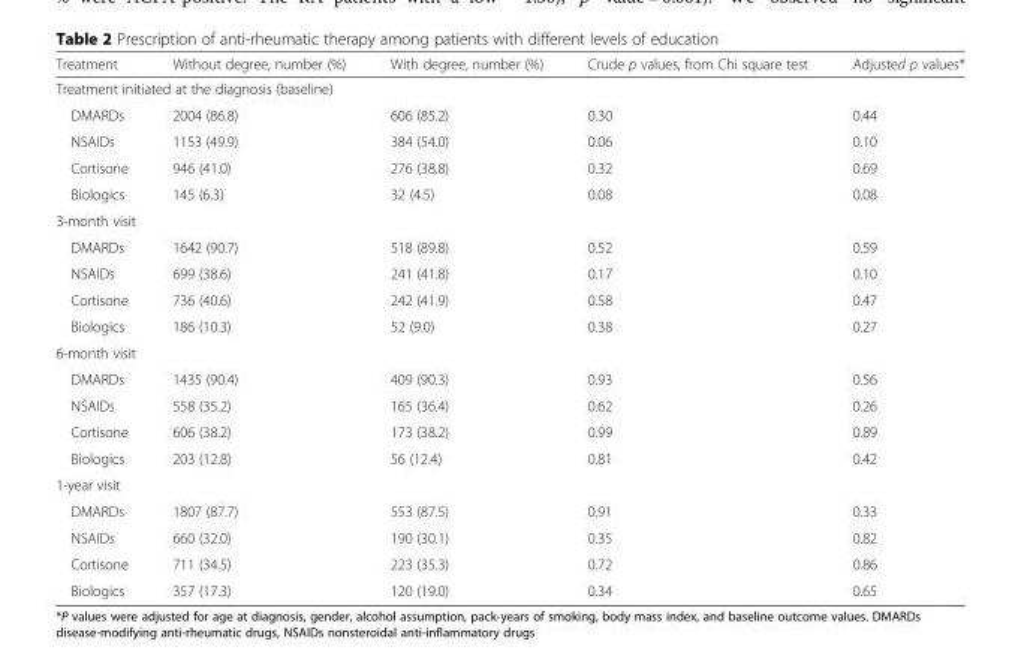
<table><thead><tr><td>Treatment</td><td>Without degree, number (%)</td><td>With degree, number (%)</td><td>Crude p values, from Chi square test</td><td>Adjusted p values*</td></tr></thead><tbody><tr><td colspan="5">Treatment initiated at the diagnosis (baseline)</td></tr><tr><td>DMARDs</td><td>2004 (86.8)</td><td>606 (85.2)</td><td>0.30</td><td>0.44</td></tr><tr><td>NSAIDs</td><td>1153 (49.9)</td><td>384 (54.0)</td><td>0.06</td><td>0.10</td></tr><tr><td>Cortisone</td><td>946 (41.0)</td><td>276 (38.8)</td><td>0.32</td><td>0.69</td></tr><tr><td>Biologics</td><td>145 (6.3)</td><td>32 (4.5)</td><td>0.08</td><td>0.08</td></tr><tr><td colspan="5">3-month visit</td></tr><tr><td>DMARDs</td><td>1642 (90.7)</td><td>518 (89.8)</td><td>0.52</td><td>0.59</td></tr><tr><td>NSAIDs</td><td>699 (38.6)</td><td>241 (41.8)</td><td>0.17</td><td>0.10</td></tr><tr><td>Cortisone</td><td>736 (40.6)</td><td>242 (41.9)</td><td>0.58</td><td>0.47</td></tr><tr><td>Biologics</td><td>186 (10.3)</td><td>52 (9.0)</td><td>0.38</td><td>0.27</td></tr><tr><td colspan="5">6-month visit</td></tr><tr><td>DMARDs</td><td>1435 (90.4)</td><td>409 (90.3)</td><td>0.93</td><td>0.56</td></tr><tr><td>NSAIDs</td><td>558 (35.2)</td><td>165 (36.4)</td><td>0.62</td><td>0.26</td></tr><tr><td>Cortisone</td><td>606 (38.2)</td><td>173 (38.2)</td><td>0.99</td><td>0.89</td></tr><tr><td>Biologics</td><td>203 (12.8)</td><td>56 (12.4)</td><td>0.81</td><td>0.42</td></tr><tr><td colspan="5">1-year visit</td></tr><tr><td>DMARDs</td><td>1807 (87.7)</td><td>553 (87.5)</td><td>0.91</td><td>0.33</td></tr><tr><td>NSAIDs</td><td>660 (32.0)</td><td>190 (30.1)</td><td>0.35</td><td>0.82</td></tr><tr><td>Cortisone</td><td>711 (34.5)</td><td>223 (35.3)</td><td>0.72</td><td>0.86</td></tr><tr><td>Biologics</td><td>357 (17.3)</td><td>120 (19.0)</td><td>0.34</td><td>0.65</td></tr></tbody></table>